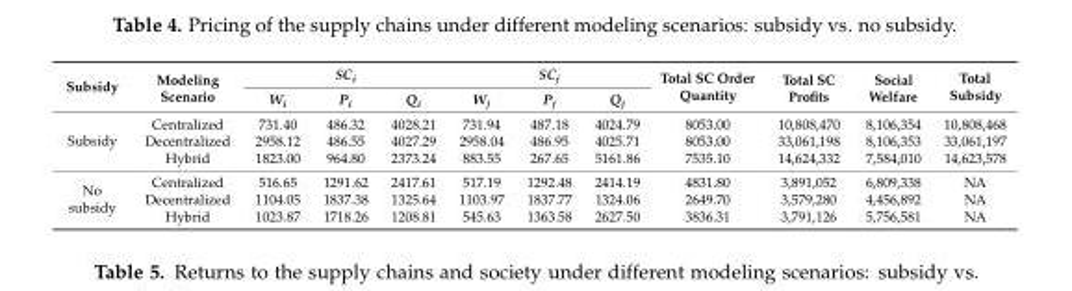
<table><thead><tr><td rowspan="2">Subsidy</td><td rowspan="2">Modeling Scenario</td><td colspan="3">SC<sub>i</sub></td><td colspan="3">SC<sub>j</sub></td><td rowspan="2">Total SC Order Quantity</td><td rowspan="2">Total SC Profits</td><td rowspan="2">Social Welfare</td><td rowspan="2">Total Subsidy</td></tr><tr><td>W<sub>i</sub></td><td>P<sub>i</sub></td><td>Q<sub>i</sub></td><td>W<sub>j</sub></td><td>P<sub>j</sub></td><td>Q<sub>j</sub></td></tr></thead><tbody><tr><td rowspan="3">Subsidy</td><td>Centralized</td><td>731.40</td><td>486.32</td><td>4028.21</td><td>731.94</td><td>487.18</td><td>4024.79</td><td>8053.00</td><td>10,808,470</td><td>8,106,354</td><td>10,808,468</td></tr><tr><td>Decentralized</td><td>2958.12</td><td>486.55</td><td>4027.29</td><td>2958.04</td><td>486.95</td><td>4025.71</td><td>8053.00</td><td>33,061,198</td><td>8,106,353</td><td>33,061,197</td></tr><tr><td>Hybrid</td><td>1823.00</td><td>964.80</td><td>2373.24</td><td>883.55</td><td>267.65</td><td>5161.86</td><td>7535.10</td><td>14,624,332</td><td>7,584,010</td><td>14,623,578</td></tr><tr><td rowspan="3">No subsidy</td><td>Centralized</td><td>516.65</td><td>1291.62</td><td>2417.61</td><td>517.19</td><td>1292.48</td><td>2414.19</td><td>4831.80</td><td>3,891,052</td><td>6,809,338</td><td>NA</td></tr><tr><td>Decentralized</td><td>1104.05</td><td>1837.38</td><td>1325.64</td><td>1103.97</td><td>1837.77</td><td>1324.06</td><td>2649.70</td><td>3,579,280</td><td>4,456,892</td><td>NA</td></tr><tr><td>Hybrid</td><td>1023.87</td><td>1718.26</td><td>1208.81</td><td>545.63</td><td>1363.58</td><td>2627.50</td><td>3836.31</td><td>3,791,126</td><td>5,756,581</td><td>NA</td></tr></tbody></table>